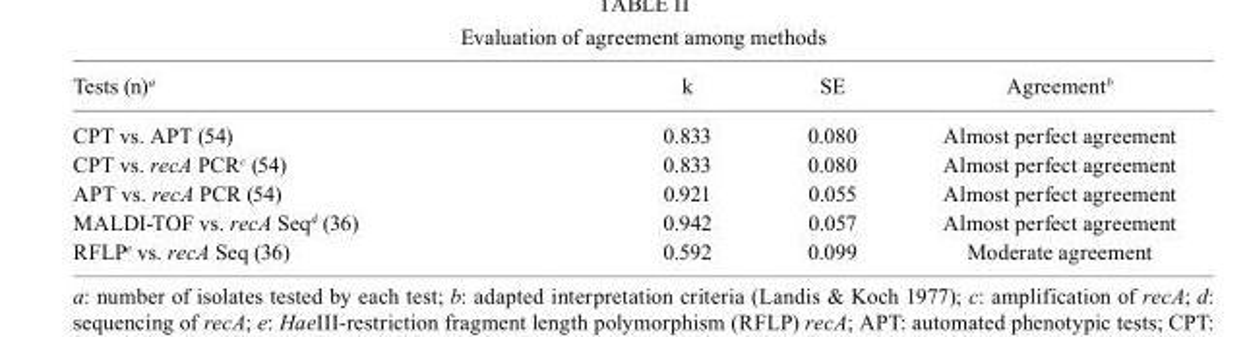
<table><thead><tr><td>Tests (n)<sup>a</sup></td><td>k</td><td>SE</td><td>Agreement<sup>b</sup></td></tr></thead><tbody><tr><td>CPT vs. APT (54)</td><td>0.833</td><td>0.080</td><td>Almost perfect agreement</td></tr><tr><td>CPT vs. recA PCR<sup>c</sup> (54)</td><td>0.833</td><td>0.080</td><td>Almost perfect agreement</td></tr><tr><td>APT vs. recA PCR (54)</td><td>0.921</td><td>0.055</td><td>Almost perfect agreement</td></tr><tr><td>MALDI-TOF vs. recA Seq<sup>d</sup> (36)</td><td>0.942</td><td>0.057</td><td>Almost perfect agreement</td></tr><tr><td>RFLP<sup>e</sup> vs. recA Seq (36)</td><td>0.592</td><td>0.099</td><td>Moderate agreement</td></tr></tbody></table>